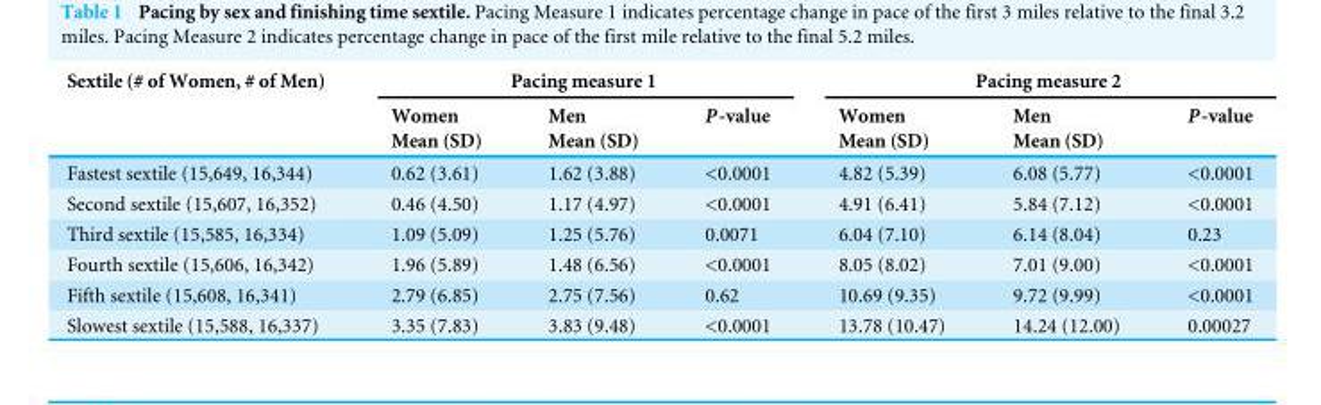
<table><thead><tr><td rowspan="3">Sextile (# of Women, # of Men)</td><td colspan="3">Pacing measure 1</td><td colspan="3">Pacing measure 2</td></tr><tr><td rowspan="2">Women Mean (SD)</td><td rowspan="2">Men Mean (SD)</td><td rowspan="2">P-value</td><td rowspan="2">Women Mean (SD)</td><td rowspan="2">Men Mean (SD)</td><td rowspan="2">P-value</td></tr><tr></tr></thead><tbody><tr><td>Fastest sextile (15,649, 16,344)</td><td>0.62 (3.61)</td><td>1.62 (3.88)</td><td>&lt;0.0001</td><td>4.82 (5.39)</td><td>6.08 (5.77)</td><td>&lt;0.0001</td></tr><tr><td>Second sextile (15,607, 16,352)</td><td>0.46 (4.50)</td><td>1.17 (4.97)</td><td>&lt;0.0001</td><td>4.91 (6.41)</td><td>5.84 (7.12)</td><td>&lt;0.0001</td></tr><tr><td>Third sextile (15,585, 16,334)</td><td>1.09 (5.09)</td><td>1.25 (5.76)</td><td>0.0071</td><td>6.04 (7.10)</td><td>6.14 (8.04)</td><td>0.23</td></tr><tr><td>Fourth sextile (15,606, 16,342)</td><td>1.96 (5.89)</td><td>1.48 (6.56)</td><td>&lt;0.0001</td><td>8.05 (8.02)</td><td>7.01 (9.00)</td><td>&lt;0.0001</td></tr><tr><td>Fifth sextile (15,608, 16,341)</td><td>2.79 (6.85)</td><td>2.75 (7.56)</td><td>0.62</td><td>10.69 (9.35)</td><td>9.72 (9.99)</td><td>&lt;0.0001</td></tr><tr><td>Slowest sextile (15,588, 16,337)</td><td>3.35 (7.83)</td><td>3.83 (9.48)</td><td>&lt;0.0001</td><td>13.78 (10.47)</td><td>14.24 (12.00)</td><td>0.00027</td></tr></tbody></table>